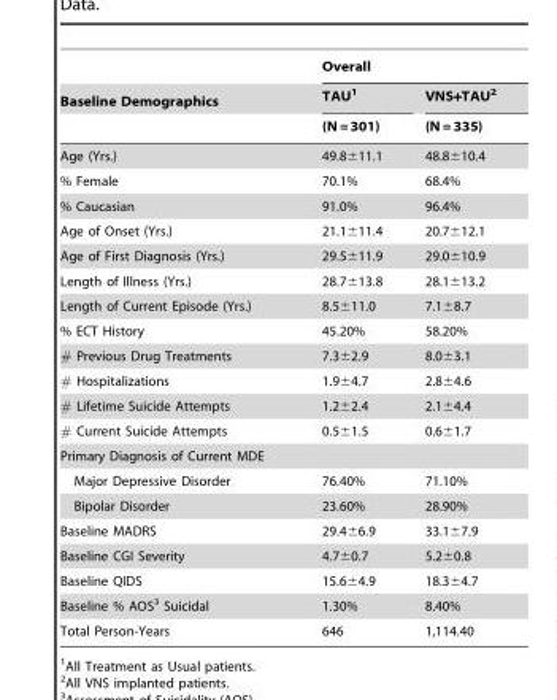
<table><thead><tr><td rowspan="3">Baseline Demographics</td><td colspan="2">Overall</td></tr><tr><td rowspan="2">TAU<sup>1</sup> (N = 301)</td><td rowspan="2">VNS+TAU<sup>2</sup> (N = 335)</td></tr><tr></tr></thead><tbody><tr><td>Age (Yrs.)</td><td>49.8±11.1</td><td>48.8±10.4</td></tr><tr><td>% Female</td><td>70.1%</td><td>68.4%</td></tr><tr><td>% Caucasian</td><td>91.0%</td><td>96.4%</td></tr><tr><td>Age of Onset (Yrs.)</td><td>21.1±11.4</td><td>20.7±12.1</td></tr><tr><td>Age of First Diagnosis (Yrs.)</td><td>29.5±11.9</td><td>29.0±10.9</td></tr><tr><td>Length of Illness (Yrs.)</td><td>28.7±13.8</td><td>28.1±13.2</td></tr><tr><td>Length of Current Episode (Yrs.)</td><td>8.5±11.0</td><td>7.1±8.7</td></tr><tr><td>% ECT History</td><td>45.20%</td><td>58.20%</td></tr><tr><td># Previous Drug Treatments</td><td>7.3±2.9</td><td>8.0±3.1</td></tr><tr><td># Hospitalizations</td><td>1.9±4.7</td><td>2.8±4.6</td></tr><tr><td># Lifetime Suicide Attempts</td><td>1.2±2.4</td><td>2.1±4.4</td></tr><tr><td># Current Suicide Attempts</td><td>0.5±1.5</td><td>0.6±1.7</td></tr><tr><td colspan="3">Primary Diagnosis of Current MDE</td></tr><tr><td>Major Depressive Disorder</td><td>76.40%</td><td>71.10%</td></tr><tr><td>Bipolar Disorder</td><td>23.60%</td><td>28.90%</td></tr><tr><td>Baseline MADRS</td><td>29.4±6.9</td><td>33.1±7.9</td></tr><tr><td>Baseline CGI Severity</td><td>4.7±0.7</td><td>5.2±0.8</td></tr><tr><td>Baseline QIDS</td><td>15.6±4.9</td><td>18.3±4.7</td></tr><tr><td>Baseline % AOS<sup>3</sup> Suicidal</td><td>1.30%</td><td>8.40%</td></tr><tr><td>Total Person-Years</td><td>646</td><td>1,114.40</td></tr></tbody></table>